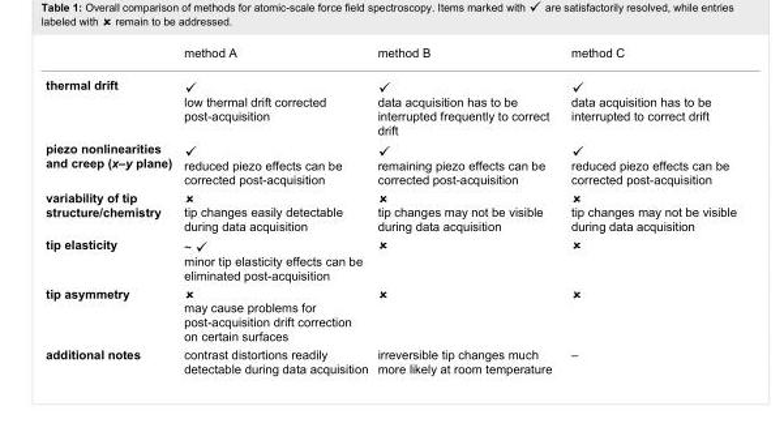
<table><thead><tr><td></td><td>method A</td><td>method B</td><td>method C</td></tr></thead><tbody><tr><td>thermal drift</td><td>low thermal drift corrected post-acquisition</td><td>data acquisition has to be interrupted frequently to correct drift</td><td>data acquisition has to be interrupted to correct drift</td></tr><tr><td>piezo nonlinearities and creep (x–y plane)</td><td>reduced piezo effects can be corrected post-acquisition</td><td>remaining piezo effects can be corrected post-acquisition</td><td>reduced piezo effects can be corrected post-acquisition</td></tr><tr><td>variability of tip structure/chemistry</td><td>tip changes easily detectable during data acquisition</td><td>tip changes may not be visible during data acquisition</td><td>tip changes may not be visible during data acquisition</td></tr><tr><td>tip elasticity</td><td>~ minor tip elasticity effects can be eliminated post-acquisition</td><td></td><td></td></tr><tr><td>tip asymmetry</td><td>may cause problems for post-acquisition drift correction on certain surfaces</td><td></td><td></td></tr><tr><td>additional notes</td><td>contrast distortions readily detectable during data acquisition</td><td>irreversible tip changes much more likely at room temperature</td><td>–</td></tr></tbody></table>